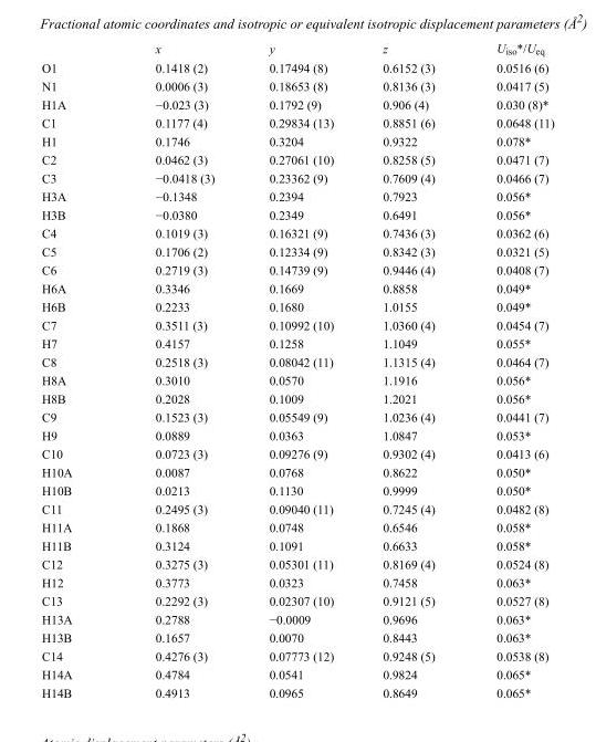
<table><thead><tr><td></td><td>x</td><td>y</td><td>z</td><td>U<sub>iso</sub>*/U<sub>eq</sub></td></tr></thead><tbody><tr><td>O1</td><td>0.1418 (2)</td><td>0.17494 (8)</td><td>0.6152 (3)</td><td>0.0516 (6)</td></tr><tr><td>N1</td><td>0.0006 (3)</td><td>0.18653 (8)</td><td>0.8136 (3)</td><td>0.0417 (5)</td></tr><tr><td>H1A</td><td>−0.023 (3)</td><td>0.1792 (9)</td><td>0.906 (4)</td><td>0.030 (8)*</td></tr><tr><td>C1</td><td>0.1177 (4)</td><td>0.29834 (13)</td><td>0.8851 (6)</td><td>0.0648 (11)</td></tr><tr><td>H1</td><td>0.1746</td><td>0.3204</td><td>0.9322</td><td>0.078*</td></tr><tr><td>C2</td><td>0.0462 (3)</td><td>0.27061 (10)</td><td>0.8258 (5)</td><td>0.0471 (7)</td></tr><tr><td>C3</td><td>−0.0418 (3)</td><td>0.23362 (9)</td><td>0.7609 (4)</td><td>0.0466 (7)</td></tr><tr><td>H3A</td><td>−0.1348</td><td>0.2394</td><td>0.7923</td><td>0.056*</td></tr><tr><td>H3B</td><td>−0.0380</td><td>0.2349</td><td>0.6491</td><td>0.056*</td></tr><tr><td>C4</td><td>0.1019 (3)</td><td>0.16321 (9)</td><td>0.7436 (3)</td><td>0.0362 (6)</td></tr><tr><td>C5</td><td>0.1706 (2)</td><td>0.12334 (9)</td><td>0.8342 (3)</td><td>0.0321 (5)</td></tr><tr><td>C6</td><td>0.2719 (3)</td><td>0.14739 (9)</td><td>0.9446 (4)</td><td>0.0408 (7)</td></tr><tr><td>H6A</td><td>0.3346</td><td>0.1669</td><td>0.8858</td><td>0.049*</td></tr><tr><td>H6B</td><td>0.2233</td><td>0.1680</td><td>1.0155</td><td>0.049*</td></tr><tr><td>C7</td><td>0.3511 (3)</td><td>0.10992 (10)</td><td>1.0360 (4)</td><td>0.0454 (7)</td></tr><tr><td>H7</td><td>0.4157</td><td>0.1258</td><td>1.1049</td><td>0.055*</td></tr><tr><td>C8</td><td>0.2518 (3)</td><td>0.08042 (11)</td><td>1.1315 (4)</td><td>0.0464 (7)</td></tr><tr><td>H8A</td><td>0.3010</td><td>0.0570</td><td>1.1916</td><td>0.056*</td></tr><tr><td>H8B</td><td>0.2028</td><td>0.1009</td><td>1.2021</td><td>0.056*</td></tr><tr><td>C9</td><td>0.1523 (3)</td><td>0.05549 (9)</td><td>1.0236 (4)</td><td>0.0441 (7)</td></tr><tr><td>H9</td><td>0.0889</td><td>0.0363</td><td>1.0847</td><td>0.053*</td></tr><tr><td>C10</td><td>0.0723 (3)</td><td>0.09276 (9)</td><td>0.9302 (4)</td><td>0.0413 (6)</td></tr><tr><td>H10A</td><td>0.0087</td><td>0.0768</td><td>0.8622</td><td>0.050*</td></tr><tr><td>H10B</td><td>0.0213</td><td>0.1130</td><td>0.9999</td><td>0.050*</td></tr><tr><td>C11</td><td>0.2495 (3)</td><td>0.09040 (11)</td><td>0.7245 (4)</td><td>0.0482 (8)</td></tr><tr><td>H11A</td><td>0.1868</td><td>0.0748</td><td>0.6546</td><td>0.058*</td></tr><tr><td>H11B</td><td>0.3124</td><td>0.1091</td><td>0.6633</td><td>0.058*</td></tr><tr><td>C12</td><td>0.3275 (3)</td><td>0.05301 (11)</td><td>0.8169 (4)</td><td>0.0524 (8)</td></tr><tr><td>H12</td><td>0.3773</td><td>0.0323</td><td>0.7458</td><td>0.063*</td></tr><tr><td>C13</td><td>0.2292 (3)</td><td>0.02307 (10)</td><td>0.9121 (5)</td><td>0.0527 (8)</td></tr><tr><td>H13A</td><td>0.2788</td><td>−0.0009</td><td>0.9696</td><td>0.063*</td></tr><tr><td>H13B</td><td>0.1657</td><td>0.0070</td><td>0.8443</td><td>0.063*</td></tr><tr><td>C14</td><td>0.4276 (3)</td><td>0.07773 (12)</td><td>0.9248 (5)</td><td>0.0538 (8)</td></tr><tr><td>H14A</td><td>0.4784</td><td>0.0541</td><td>0.9824</td><td>0.065*</td></tr><tr><td>H14B</td><td>0.4913</td><td>0.0965</td><td>0.8649</td><td>0.065*</td></tr></tbody></table>